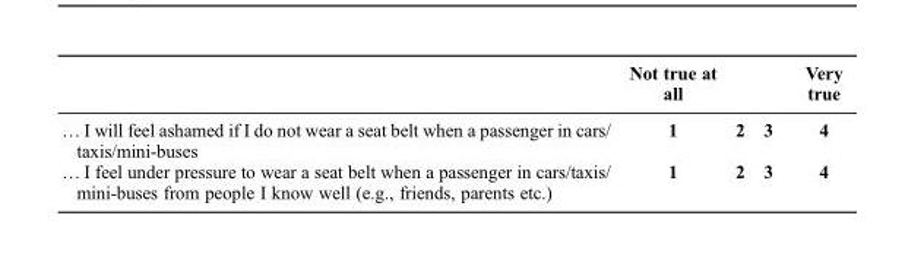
<table><thead><tr><td></td><td>Not true at all</td><td></td><td></td><td>Very true</td></tr></thead><tbody><tr><td>… I will feel ashamed if I do not wear a seat belt when a passenger in cars/ taxis/mini-buses</td><td>1</td><td>2</td><td>3</td><td>4</td></tr><tr><td>… I feel under pressure to wear a seat belt when a passenger in cars/taxis/ mini-buses from people I know well (e.g., friends, parents etc.)</td><td>1</td><td>2</td><td>3</td><td>4</td></tr></tbody></table>